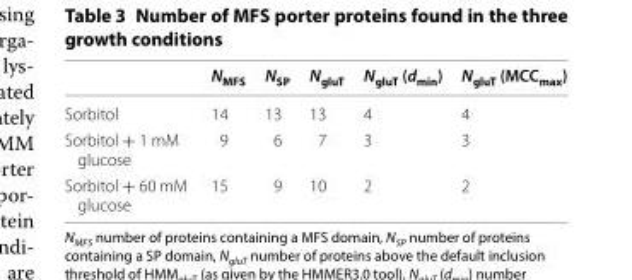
<table><thead><tr><td></td><td>N<sub>MFS</sub></td><td>N<sub>SP</sub></td><td>N<sub>gluT</sub></td><td>N<sub>gluT</sub> (d<sub>min</sub>)</td><td>N<sub>gluT</sub> (MCC<sub>max</sub>)</td></tr></thead><tbody><tr><td>Sorbitol</td><td>14</td><td>13</td><td>13</td><td>4</td><td>4</td></tr><tr><td>Sorbitol + 1 mM glucose</td><td>9</td><td>6</td><td>7</td><td>3</td><td>3</td></tr><tr><td>Sorbitol + 60 mM glucose</td><td>15</td><td>9</td><td>10</td><td>2</td><td>2</td></tr></tbody></table>